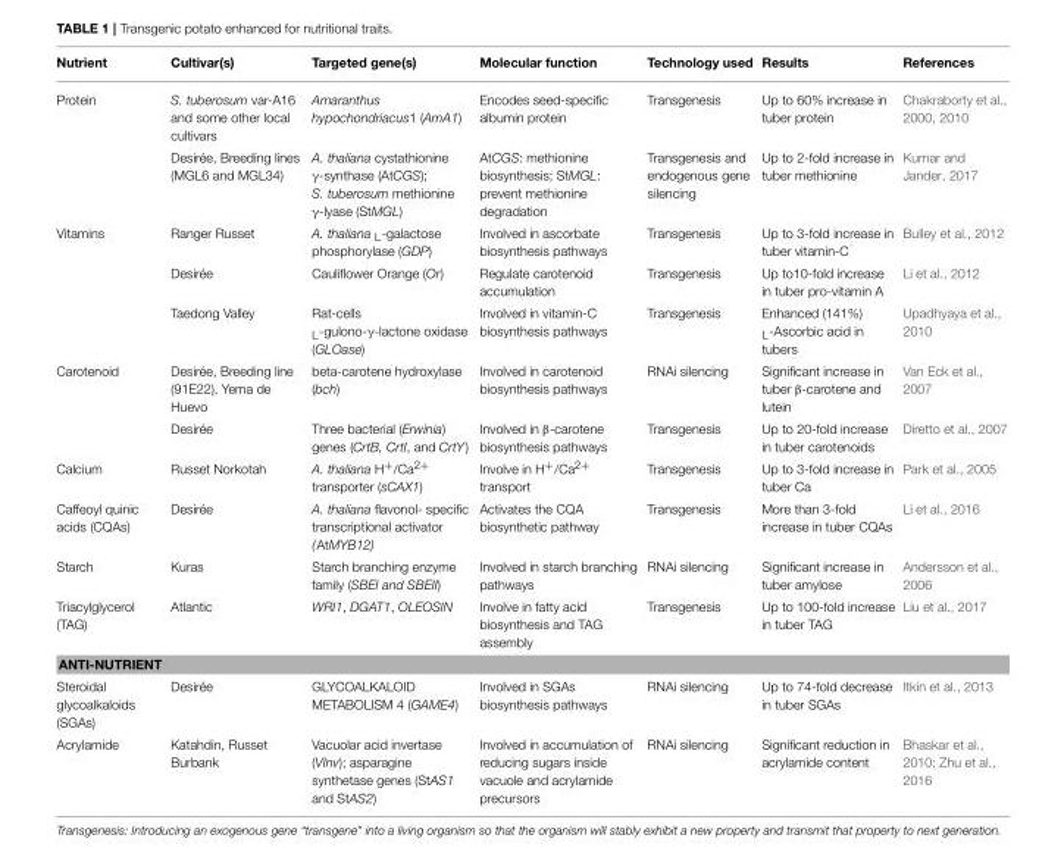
<table><thead><tr><td>Nutrient</td><td>Cultivar(s)</td><td>Targeted gene(s)</td><td>Molecular function</td><td>Technology used</td><td>Results</td><td>References</td></tr></thead><tbody><tr><td rowspan="2">Protein</td><td>S. tuberosum var-A16 and some other local cultivars</td><td>Amaranthus hypochondriacus1 (AmA1)</td><td>Encodes seed-specific albumin protein</td><td>Transgenesis</td><td>Up to 60% increase in tuber protein</td><td>Chakraborty et al., 2000, 2010</td></tr><tr><td>Desirée, Breeding lines (MGL6 and MGL34)</td><td>A. thaliana cystathionine γ-synthase (AtCGS); S. tuberosum methionine γ-lyase (StMGL)</td><td>AtCGS: methionine biosynthesis; StMGL: prevent methionine degradation</td><td>Transgenesis and endogenous gene silencing</td><td>Up to 2-fold increase in tuber methionine</td><td>Kumar and Jander, 2017</td></tr><tr><td rowspan="3">Vitamins</td><td>Ranger Russet</td><td>A. thaliana <sub>L</sub>-galactose phosphorylase (GDP)</td><td>Involved in ascorbate biosynthesis pathways</td><td>Transgenesis</td><td>Up to 3-fold increase in tuber vitamin-C</td><td>Bulley et al., 2012</td></tr><tr><td>Desirée</td><td>Cauliflower Orange (Or)</td><td>Regulate carotenoid accumulation</td><td>Transgenesis</td><td>Up to10-fold increase in tuber pro-vitamin A</td><td>Li et al., 2012</td></tr><tr><td>Taedong Valley</td><td>Rat-cells <sub>L</sub>-gulono-γ-lactone oxidase (GLOase)</td><td>Involved in vitamin-C biosynthesis pathways</td><td>Transgenesis</td><td>Enhanced (141%) <sub>L</sub>-Ascorbic acid in tubers</td><td>Upadhyaya et al., 2010</td></tr><tr><td rowspan="2">Carotenoid</td><td>Desirée, Breeding line (91E22), Yema de Huevo</td><td>beta-carotene hydroxylase (bch)</td><td>Involved in carotenoid biosynthesis pathways</td><td>RNAi silencing</td><td>Significant increase in tuber β-carotene and lutein</td><td>Van Eck et al., 2007</td></tr><tr><td>Desirée</td><td>Three bacterial (Erwinia) genes (CrtB, CrtI, and CrtY)</td><td>Involved in β-carotene biosynthesis pathways</td><td>Transgenesis</td><td>Up to 20-fold increase in tuber carotenoids</td><td>Diretto et al., 2007</td></tr><tr><td>Calcium</td><td>Russet Norkotah</td><td>A. thaliana H<sup>+</sup>/Ca<sup>2+</sup> transporter (sCAX1)</td><td>Involve in H<sup>+</sup>/Ca<sup>2+</sup> transport</td><td>Transgenesis</td><td>Up to 3-fold increase in tuber Ca</td><td>Park et al., 2005</td></tr><tr><td>Caffeoyl quinic acids (CQAs)</td><td>Desirée</td><td>A. thaliana flavonol- specific transcriptional activator (AtMYB12)</td><td>Activates the CQA biosynthetic pathway</td><td>Transgenesis</td><td>More than 3-fold increase in tuber CQAs</td><td>Li et al., 2016</td></tr><tr><td>Starch</td><td>Kuras</td><td>Starch branching enzyme family (SBEI and SBEII)</td><td>Involved in starch branching pathways</td><td>RNAi silencing</td><td>Significant increase in tuber amylose</td><td>Andersson et al., 2006</td></tr><tr><td>Triacylglycerol (TAG)</td><td>Atlantic</td><td>WRI1, DGAT1, OLEOSIN</td><td>Involve in fatty acid biosynthesis and TAG assembly</td><td>Transgenesis</td><td>Up to 100-fold increase in tuber TAG</td><td>Liu et al., 2017</td></tr><tr><td colspan="7">ANTI-NUTRIENT</td></tr><tr><td>Steroidal glycoalkaloids (SGAs)</td><td>Desirée</td><td>GLYCOALKALOID METABOLISM 4 (GAME4)</td><td>Involved in SGAs biosynthesis pathways</td><td>RNAi silencing</td><td>Up to 74-fold decrease in tuber SGAs</td><td>Itkin et al., 2013</td></tr><tr><td>Acrylamide</td><td>Katahdin, Russet Burbank</td><td>Vacuolar acid invertase (VInv); asparagine synthetase genes (StAS1 and StAS2)</td><td>Involved in accumulation of reducing sugars inside vacuole and acrylamide precursors</td><td>RNAi silencing</td><td>Significant reduction in acrylamide content</td><td>Bhaskar et al., 2010; Zhu et al., 2016</td></tr></tbody></table>